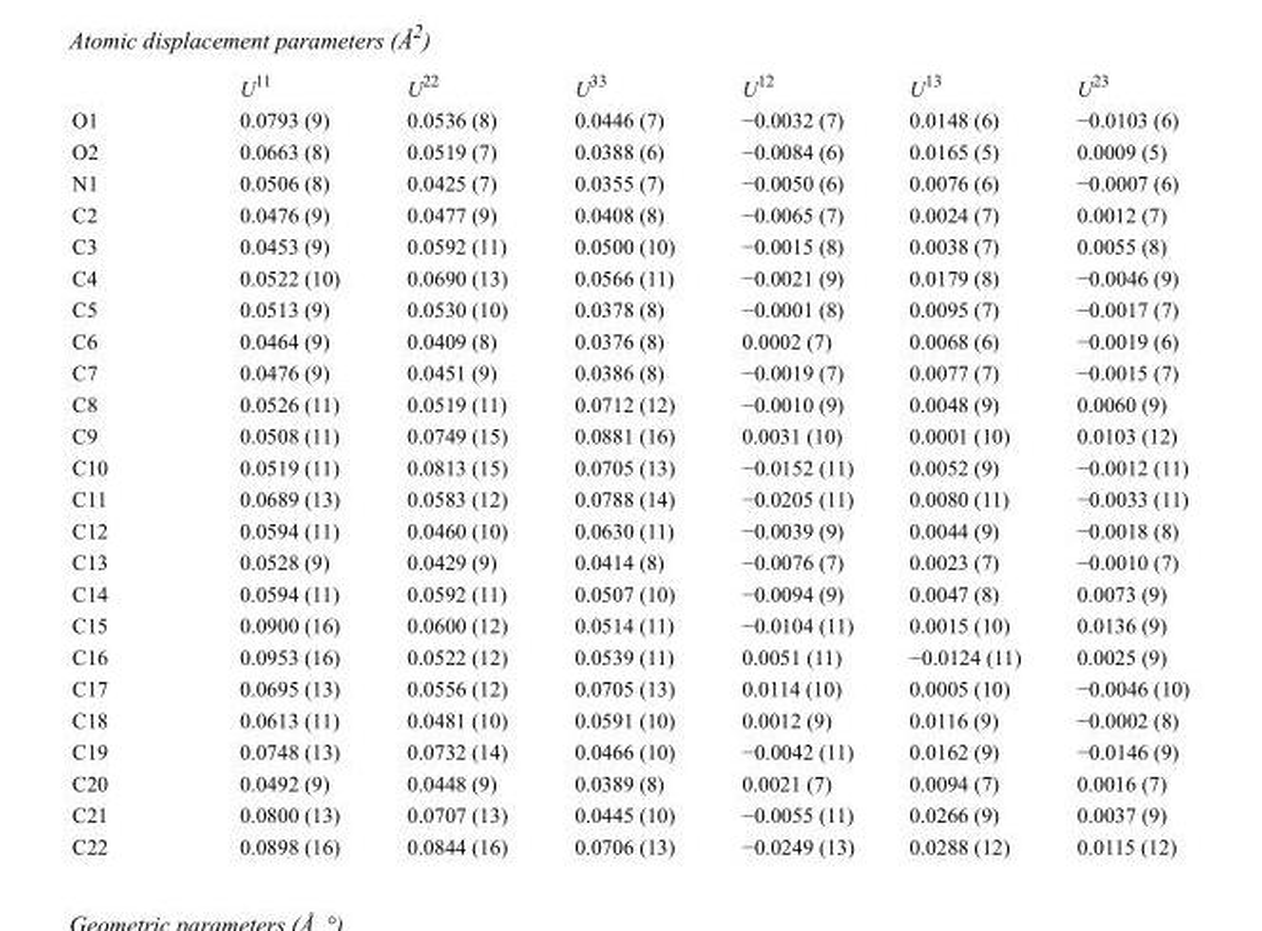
<table><thead><tr><td></td><td>U<sup>11</sup></td><td>U<sup>22</sup></td><td>U<sup>33</sup></td><td>U<sup>12</sup></td><td>U<sup>13</sup></td><td>U<sup>23</sup></td></tr></thead><tbody><tr><td>O1</td><td>0.0793 (9)</td><td>0.0536 (8)</td><td>0.0446 (7)</td><td>−0.0032 (7)</td><td>0.0148 (6)</td><td>−0.0103 (6)</td></tr><tr><td>O2</td><td>0.0663 (8)</td><td>0.0519 (7)</td><td>0.0388 (6)</td><td>−0.0084 (6)</td><td>0.0165 (5)</td><td>0.0009 (5)</td></tr><tr><td>N1</td><td>0.0506 (8)</td><td>0.0425 (7)</td><td>0.0355 (7)</td><td>−0.0050 (6)</td><td>0.0076 (6)</td><td>−0.0007 (6)</td></tr><tr><td>C2</td><td>0.0476 (9)</td><td>0.0477 (9)</td><td>0.0408 (8)</td><td>−0.0065 (7)</td><td>0.0024 (7)</td><td>0.0012 (7)</td></tr><tr><td>C3</td><td>0.0453 (9)</td><td>0.0592 (11)</td><td>0.0500 (10)</td><td>−0.0015 (8)</td><td>0.0038 (7)</td><td>0.0055 (8)</td></tr><tr><td>C4</td><td>0.0522 (10)</td><td>0.0690 (13)</td><td>0.0566 (11)</td><td>−0.0021 (9)</td><td>0.0179 (8)</td><td>−0.0046 (9)</td></tr><tr><td>C5</td><td>0.0513 (9)</td><td>0.0530 (10)</td><td>0.0378 (8)</td><td>−0.0001 (8)</td><td>0.0095 (7)</td><td>−0.0017 (7)</td></tr><tr><td>C6</td><td>0.0464 (9)</td><td>0.0409 (8)</td><td>0.0376 (8)</td><td>0.0002 (7)</td><td>0.0068 (6)</td><td>−0.0019 (6)</td></tr><tr><td>C7</td><td>0.0476 (9)</td><td>0.0451 (9)</td><td>0.0386 (8)</td><td>−0.0019 (7)</td><td>0.0077 (7)</td><td>−0.0015 (7)</td></tr><tr><td>C8</td><td>0.0526 (11)</td><td>0.0519 (11)</td><td>0.0712 (12)</td><td>−0.0010 (9)</td><td>0.0048 (9)</td><td>0.0060 (9)</td></tr><tr><td>C9</td><td>0.0508 (11)</td><td>0.0749 (15)</td><td>0.0881 (16)</td><td>0.0031 (10)</td><td>0.0001 (10)</td><td>0.0103 (12)</td></tr><tr><td>C10</td><td>0.0519 (11)</td><td>0.0813 (15)</td><td>0.0705 (13)</td><td>−0.0152 (11)</td><td>0.0052 (9)</td><td>−0.0012 (11)</td></tr><tr><td>C11</td><td>0.0689 (13)</td><td>0.0583 (12)</td><td>0.0788 (14)</td><td>−0.0205 (11)</td><td>0.0080 (11)</td><td>−0.0033 (11)</td></tr><tr><td>C12</td><td>0.0594 (11)</td><td>0.0460 (10)</td><td>0.0630 (11)</td><td>−0.0039 (9)</td><td>0.0044 (9)</td><td>−0.0018 (8)</td></tr><tr><td>C13</td><td>0.0528 (9)</td><td>0.0429 (9)</td><td>0.0414 (8)</td><td>−0.0076 (7)</td><td>0.0023 (7)</td><td>−0.0010 (7)</td></tr><tr><td>C14</td><td>0.0594 (11)</td><td>0.0592 (11)</td><td>0.0507 (10)</td><td>−0.0094 (9)</td><td>0.0047 (8)</td><td>0.0073 (9)</td></tr><tr><td>C15</td><td>0.0900 (16)</td><td>0.0600 (12)</td><td>0.0514 (11)</td><td>−0.0104 (11)</td><td>0.0015 (10)</td><td>0.0136 (9)</td></tr><tr><td>C16</td><td>0.0953 (16)</td><td>0.0522 (12)</td><td>0.0539 (11)</td><td>0.0051 (11)</td><td>−0.0124 (11)</td><td>0.0025 (9)</td></tr><tr><td>C17</td><td>0.0695 (13)</td><td>0.0556 (12)</td><td>0.0705 (13)</td><td>0.0114 (10)</td><td>0.0005 (10)</td><td>−0.0046 (10)</td></tr><tr><td>C18</td><td>0.0613 (11)</td><td>0.0481 (10)</td><td>0.0591 (10)</td><td>0.0012 (9)</td><td>0.0116 (9)</td><td>−0.0002 (8)</td></tr><tr><td>C19</td><td>0.0748 (13)</td><td>0.0732 (14)</td><td>0.0466 (10)</td><td>−0.0042 (11)</td><td>0.0162 (9)</td><td>−0.0146 (9)</td></tr><tr><td>C20</td><td>0.0492 (9)</td><td>0.0448 (9)</td><td>0.0389 (8)</td><td>0.0021 (7)</td><td>0.0094 (7)</td><td>0.0016 (7)</td></tr><tr><td>C21</td><td>0.0800 (13)</td><td>0.0707 (13)</td><td>0.0445 (10)</td><td>−0.0055 (11)</td><td>0.0266 (9)</td><td>0.0037 (9)</td></tr><tr><td>C22</td><td>0.0898 (16)</td><td>0.0844 (16)</td><td>0.0706 (13)</td><td>−0.0249 (13)</td><td>0.0288 (12)</td><td>0.0115 (12)</td></tr></tbody></table>